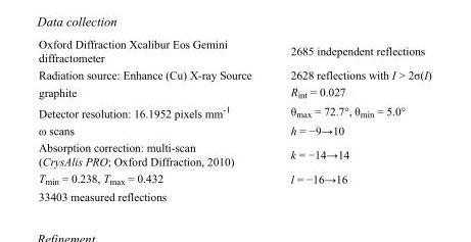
<table><tbody><tr><td>Oxford Diffraction Xcalibur Eos Gemini diffractometer</td><td>2685 independent reflections</td></tr><tr><td>Radiation source: Enhance (Cu) X-ray Source</td><td>2628 reflections with I &gt; 2σ(I)</td></tr><tr><td>graphite</td><td>R<sub>int</sub> = 0.027</td></tr><tr><td>Detector resolution: 16.1952 pixels mm<sup>-1</sup></td><td>θ<sub>max</sub> = 72.7°, θ<sub>min</sub> = 5.0°</td></tr><tr><td>ω scans</td><td>h = −9→10</td></tr><tr><td>Absorption correction: multi-scan (CrysAlis PRO; Oxford Diffraction, 2010)</td><td>k = −14→14</td></tr><tr><td>T<sub>min</sub> = 0.238, T<sub>max</sub> = 0.432</td><td>l = −16→16</td></tr><tr><td>33403 measured reflections</td><td></td></tr></tbody></table>